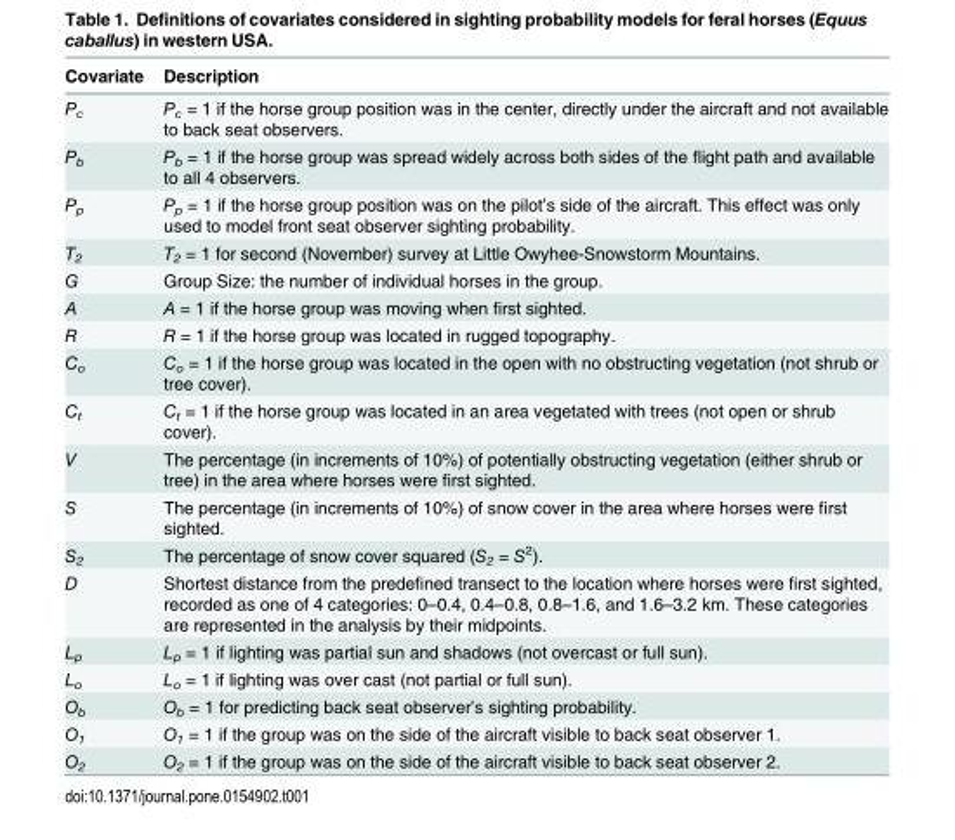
<table><thead><tr><td>Covariate</td><td>Description</td></tr></thead><tbody><tr><td>P<sub>c</sub></td><td>P<sub>c</sub> = 1 if the horse group position was in the center, directly under the aircraft and not available to back seat observers.</td></tr><tr><td>P<sub>b</sub></td><td>P<sub>b</sub> = 1 if the horse group was spread widely across both sides of the flight path and available to all 4 observers.</td></tr><tr><td>P<sub>p</sub></td><td>P<sub>p</sub> = 1 if the horse group position was on the pilot’s side of the aircraft. This effect was only used to model front seat observer sighting probability.</td></tr><tr><td>T<sub>2</sub></td><td>T<sub>2</sub> = 1 for second (November) survey at Little Owyhee-Snowstorm Mountains.</td></tr><tr><td>G</td><td>Group Size: the number of individual horses in the group.</td></tr><tr><td>A</td><td>A = 1 if the horse group was moving when first sighted.</td></tr><tr><td>R</td><td>R = 1 if the horse group was located in rugged topography.</td></tr><tr><td>C<sub>o</sub></td><td>C<sub>o</sub> = 1 if the horse group was located in the open with no obstructing vegetation (not shrub or tree cover).</td></tr><tr><td>C<sub>t</sub></td><td>C<sub>t</sub> = 1 if the horse group was located in an area vegetated with trees (not open or shrub cover).</td></tr><tr><td>V</td><td>The percentage (in increments of 10%) of potentially obstructing vegetation (either shrub or tree) in the area where horses were first sighted.</td></tr><tr><td>S</td><td>The percentage (in increments of 10%) of snow cover in the area where horses were first sighted.</td></tr><tr><td>S<sub>2</sub></td><td>The percentage of snow cover squared (S<sub>2</sub> = S<sup>2</sup>).</td></tr><tr><td>D</td><td>Shortest distance from the predefined transect to the location where horses were first sighted, recorded as one of 4 categories: 0–0.4, 0.4–0.8, 0.8–1.6, and 1.6–3.2 km. These categories are represented in the analysis by their midpoints.</td></tr><tr><td>L<sub>p</sub></td><td>L<sub>p</sub> = 1 if lighting was partial sun and shadows (not overcast or full sun).</td></tr><tr><td>L<sub>o</sub></td><td>L<sub>o</sub> = 1 if lighting was over cast (not partial or full sun).</td></tr><tr><td>O<sub>b</sub></td><td>O<sub>b</sub> = 1 for predicting back seat observer’s sighting probability.</td></tr><tr><td>O<sub>1</sub></td><td>O<sub>1</sub> = 1 if the group was on the side of the aircraft visible to back seat observer 1.</td></tr><tr><td>O<sub>2</sub></td><td>O<sub>2</sub> = 1 if the group was on the side of the aircraft visible to back seat observer 2.</td></tr></tbody></table>